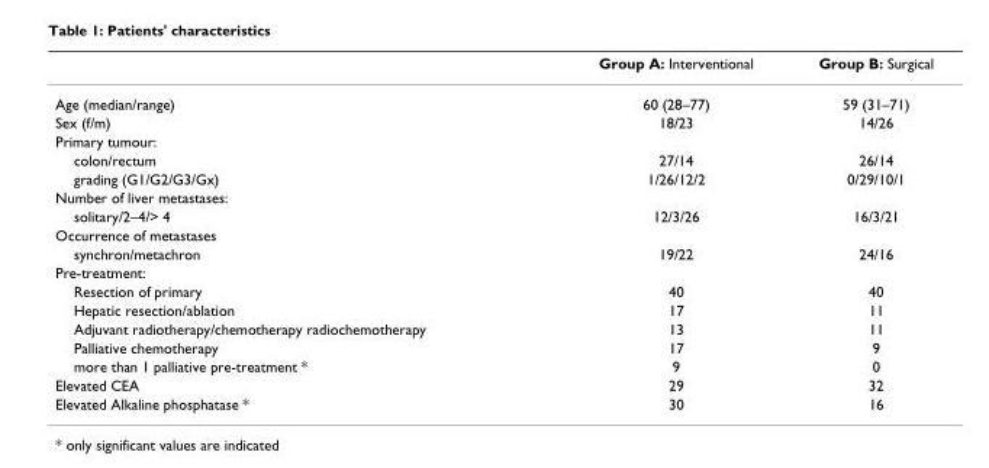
<table><thead><tr><td></td><td>Group A: Interventional</td><td>Group B: Surgical</td></tr></thead><tbody><tr><td>Age (median/range)</td><td>60 (28–77)</td><td>59 (31–71)</td></tr><tr><td>Sex (f/m)</td><td>18/23</td><td>14/26</td></tr><tr><td colspan="3">Primary tumour:</td></tr><tr><td>colon/rectum</td><td>27/14</td><td>26/14</td></tr><tr><td>grading (G1/G2/G3/Gx)</td><td>1/26/12/2</td><td>0/29/10/1</td></tr><tr><td colspan="3">Number of liver metastases:</td></tr><tr><td>solitary/2–4/&gt; 4</td><td>12/3/26</td><td>16/3/21</td></tr><tr><td colspan="3">Occurrence of metastases</td></tr><tr><td>synchron/metachron</td><td>19/22</td><td>24/16</td></tr><tr><td colspan="3">Pre-treatment:</td></tr><tr><td>Resection of primary</td><td>40</td><td>40</td></tr><tr><td>Hepatic resection/ablation</td><td>17</td><td>11</td></tr><tr><td>Adjuvant radiotherapy/chemotherapy radiochemotherapy</td><td>13</td><td>11</td></tr><tr><td>Palliative chemotherapy</td><td>17</td><td>9</td></tr><tr><td>more than 1 palliative pre-treatment *</td><td>9</td><td>0</td></tr><tr><td>Elevated CEA</td><td>29</td><td>32</td></tr><tr><td>Elevated Alkaline phosphatase *</td><td>30</td><td>16</td></tr></tbody></table>